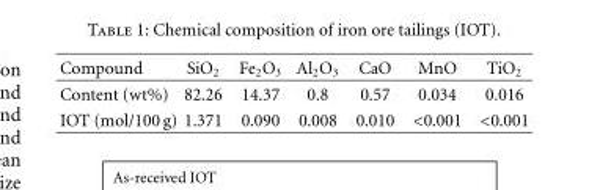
<table><thead><tr><td>Compound</td><td>SiO<sub>2</sub></td><td>Fe<sub>2</sub>O<sub>3</sub></td><td>Al<sub>2</sub>O<sub>3</sub></td><td>CaO</td><td>MnO</td><td>TiO<sub>2</sub></td></tr></thead><tbody><tr><td>Content (wt%)</td><td>82.26</td><td>14.37</td><td>0.8</td><td>0.57</td><td>0.034</td><td>0.016</td></tr><tr><td>IOT (mol/100 g)</td><td>1.371</td><td>0.090</td><td>0.008</td><td>0.010</td><td>&lt;0.001</td><td>&lt;0.001</td></tr></tbody></table>